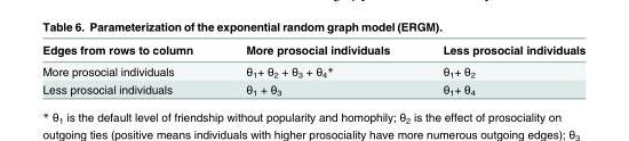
<table><thead><tr><td>Edges from rows to column</td><td>More prosocial individuals</td><td>Less prosocial individuals</td></tr></thead><tbody><tr><td>More prosocial individuals</td><td>θ<sub>1</sub>+ θ<sub>2</sub> + θ<sub>3</sub> + θ<sub>4</sub>*</td><td>θ<sub>1</sub>+ θ<sub>2</sub></td></tr><tr><td>Less prosocial individuals</td><td>θ<sub>1</sub> + θ<sub>3</sub></td><td>θ<sub>1</sub>+ θ<sub>4</sub></td></tr></tbody></table>